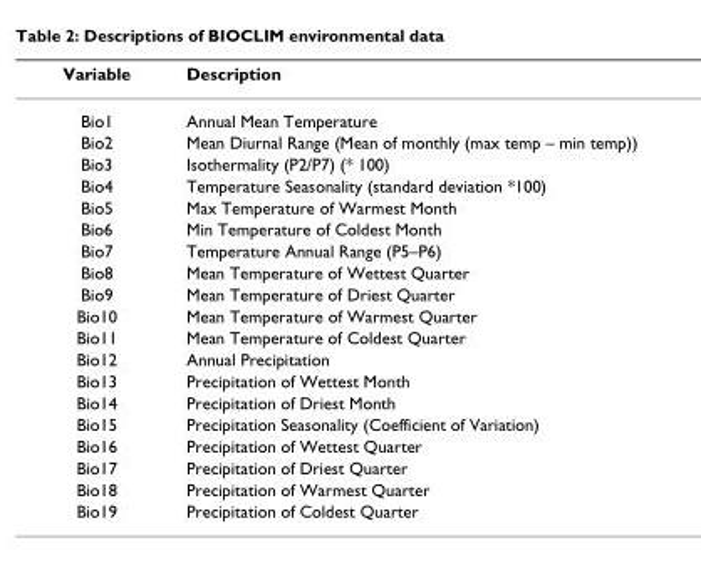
<table><thead><tr><td>Variable</td><td>Description</td></tr></thead><tbody><tr><td>Bio1</td><td>Annual Mean Temperature</td></tr><tr><td>Bio2</td><td>Mean Diurnal Range (Mean of monthly (max temp – min temp))</td></tr><tr><td>Bio3</td><td>Isothermality (P2/P7) (* 100)</td></tr><tr><td>Bio4</td><td>Temperature Seasonality (standard deviation *100)</td></tr><tr><td>Bio5</td><td>Max Temperature of Warmest Month</td></tr><tr><td>Bio6</td><td>Min Temperature of Coldest Month</td></tr><tr><td>Bio7</td><td>Temperature Annual Range (P5–P6)</td></tr><tr><td>Bio8</td><td>Mean Temperature of Wettest Quarter</td></tr><tr><td>Bio9</td><td>Mean Temperature of Driest Quarter</td></tr><tr><td>Bio10</td><td>Mean Temperature of Warmest Quarter</td></tr><tr><td>Bio11</td><td>Mean Temperature of Coldest Quarter</td></tr><tr><td>Bio12</td><td>Annual Precipitation</td></tr><tr><td>Bio13</td><td>Precipitation of Wettest Month</td></tr><tr><td>Bio14</td><td>Precipitation of Driest Month</td></tr><tr><td>Bio15</td><td>Precipitation Seasonality (Coefficient of Variation)</td></tr><tr><td>Bio16</td><td>Precipitation of Wettest Quarter</td></tr><tr><td>Bio17</td><td>Precipitation of Driest Quarter</td></tr><tr><td>Bio18</td><td>Precipitation of Warmest Quarter</td></tr><tr><td>Bio19</td><td>Precipitation of Coldest Quarter</td></tr></tbody></table>